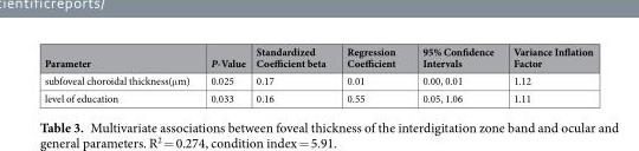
<table><thead><tr><td>Parameter</td><td>P-Value</td><td>Standardized Coefficient beta</td><td>Regression Coefficient</td><td>95% Confidence Intervals</td><td>Variance Inflation Factor</td></tr></thead><tbody><tr><td>subfoveal choroidal thickness(μm)</td><td>0.025</td><td>0.17</td><td>0.01</td><td>0.00, 0.01</td><td>1.12</td></tr><tr><td>level of education</td><td>0.033</td><td>0.16</td><td>0.55</td><td>0.05, 1.06</td><td>1.11</td></tr></tbody></table>